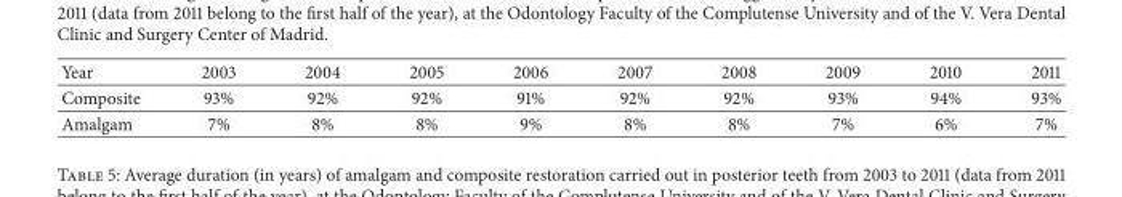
<table><tbody><tr><td>Year</td><td>2003</td><td>2004</td><td>2005</td><td>2006</td><td>2007</td><td>2008</td><td>2009</td><td>2010</td><td>2011</td></tr><tr><td>Composite</td><td>93%</td><td>92%</td><td>92%</td><td>91%</td><td>92%</td><td>92%</td><td>93%</td><td>94%</td><td>93%</td></tr><tr><td>Amalgam</td><td>7%</td><td>8%</td><td>8%</td><td>9%</td><td>8%</td><td>8%</td><td>7%</td><td>6%</td><td>7%</td></tr></tbody></table>